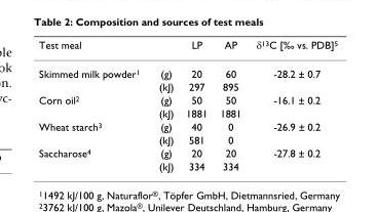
<table><thead><tr><td>Test meal</td><td></td><td>LP</td><td>AP</td><td>δ<sup>13</sup>C [‰ vs. PDB]<sup>5</sup></td></tr></thead><tbody><tr><td rowspan="2">Skimmed milk powder<sup>1</sup></td><td>(g)</td><td>20</td><td>60</td><td>-28.2 ± 0.7</td></tr><tr><td>(kJ)</td><td>297</td><td>895</td><td></td></tr><tr><td rowspan="2">Corn oil<sup>2</sup></td><td>(g)</td><td>50</td><td>50</td><td>-16.1 ± 0.2</td></tr><tr><td>(kJ)</td><td>1881</td><td>1881</td><td></td></tr><tr><td rowspan="2">Wheat starch<sup>3</sup></td><td>(g)</td><td>40</td><td>0</td><td>-26.9 ± 0.2</td></tr><tr><td>(kJ)</td><td>581</td><td>0</td><td></td></tr><tr><td rowspan="2">Saccharose<sup>4</sup></td><td>(g)</td><td>20</td><td>20</td><td>-27.8 ± 0.2</td></tr><tr><td>(kJ)</td><td>334</td><td>334</td><td></td></tr></tbody></table>